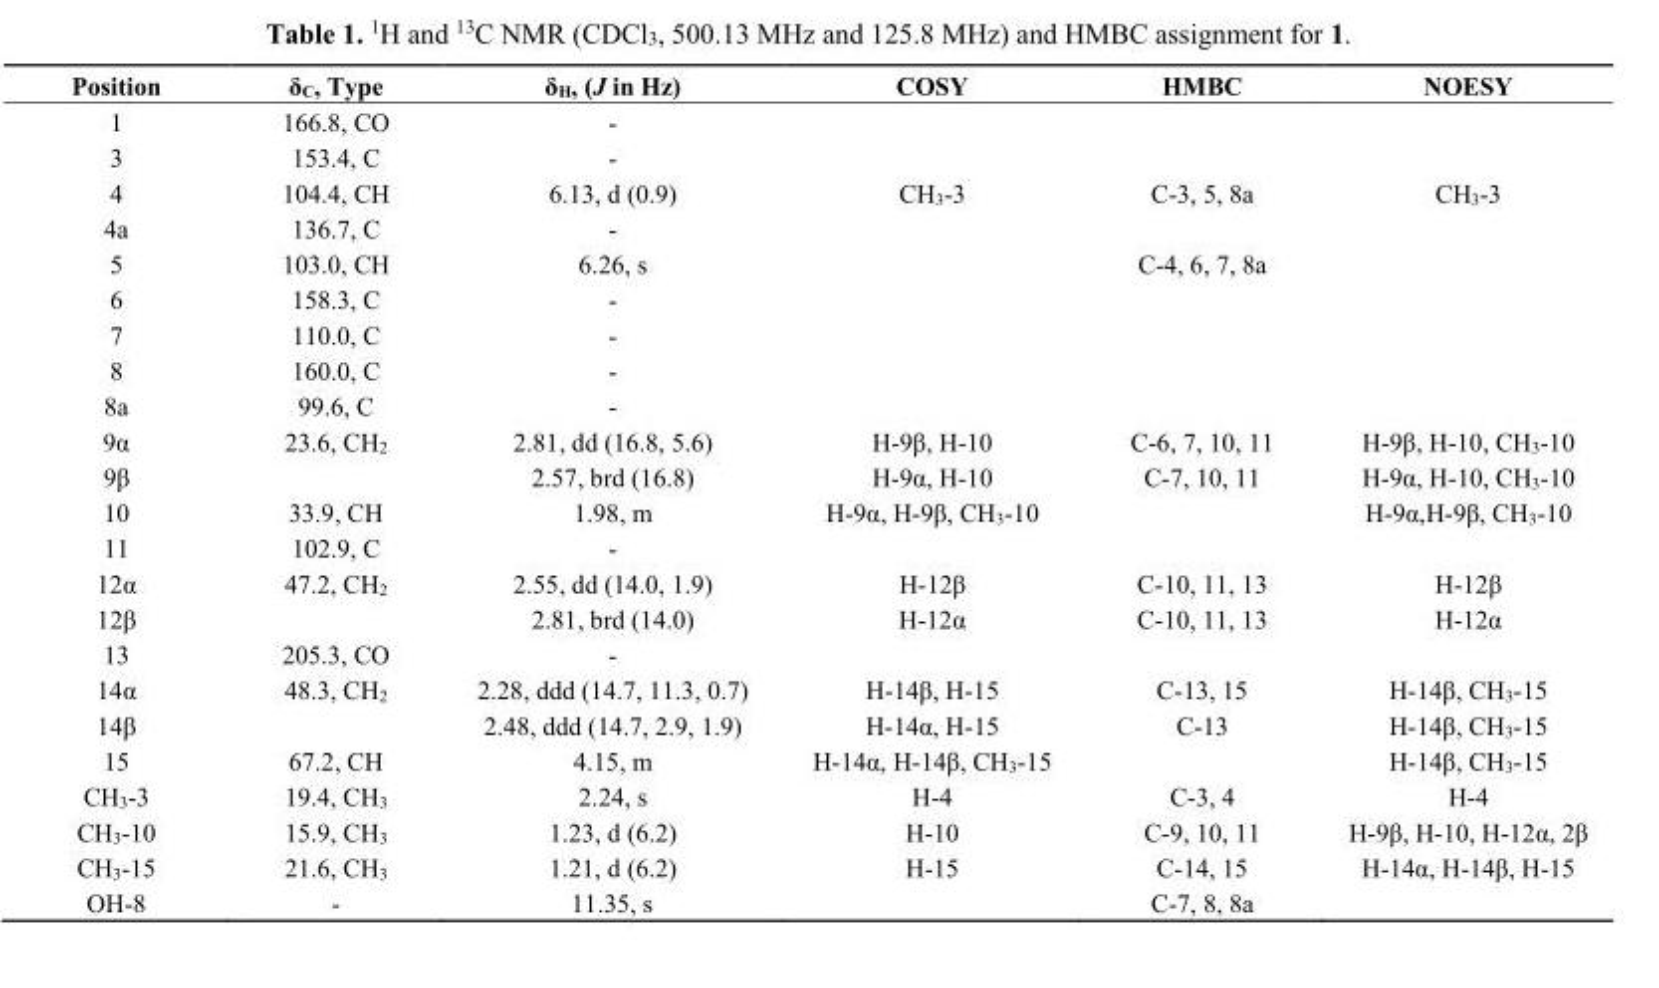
<table><thead><tr><td>Position</td><td>δ<sub>C</sub>, Type</td><td>δ<sub>H</sub>, (J in Hz)</td><td>COSY</td><td>HMBC</td><td>NOESY</td></tr></thead><tbody><tr><td>1</td><td>166.8, CO</td><td>-</td><td></td><td></td><td></td></tr><tr><td>3</td><td>153.4, C</td><td>-</td><td></td><td></td><td></td></tr><tr><td>4</td><td>104.4, CH</td><td>6.13, d (0.9)</td><td>CH<sub>3</sub>-3</td><td>C-3, 5, 8a</td><td>CH<sub>3</sub>-3</td></tr><tr><td>4a</td><td>136.7, C</td><td>-</td><td></td><td></td><td></td></tr><tr><td>5</td><td>103.0, CH</td><td>6.26, s</td><td></td><td>C-4, 6, 7, 8a</td><td></td></tr><tr><td>6</td><td>158.3, C</td><td>-</td><td></td><td></td><td></td></tr><tr><td>7</td><td>110.0, C</td><td>-</td><td></td><td></td><td></td></tr><tr><td>8</td><td>160.0, C</td><td>-</td><td></td><td></td><td></td></tr><tr><td>8a</td><td>99.6, C</td><td>-</td><td></td><td></td><td></td></tr><tr><td>9α</td><td>23.6, CH<sub>2</sub></td><td>2.81, dd (16.8, 5.6)</td><td>H-9β, H-10</td><td>C-6, 7, 10, 11</td><td>H-9β, H-10, CH<sub>3</sub>-10</td></tr><tr><td>9β</td><td></td><td>2.57, brd (16.8)</td><td>H-9α, H-10</td><td>C-7, 10, 11</td><td>H-9α, H-10, CH<sub>3</sub>-10</td></tr><tr><td>10</td><td>33.9, CH</td><td>1.98, m</td><td>H-9α, H-9β, CH<sub>3</sub>-10</td><td></td><td>H-9α,H-9β, CH<sub>3</sub>-10</td></tr><tr><td>11</td><td>102.9, C</td><td>-</td><td></td><td></td><td></td></tr><tr><td>12α</td><td>47.2, CH<sub>2</sub></td><td>2.55, dd (14.0, 1.9)</td><td>H-12β</td><td>C-10, 11, 13</td><td>H-12β</td></tr><tr><td>12β</td><td></td><td>2.81, brd (14.0)</td><td>H-12α</td><td>C-10, 11, 13</td><td>H-12α</td></tr><tr><td>13</td><td>205.3, CO</td><td>-</td><td></td><td></td><td></td></tr><tr><td>14α</td><td>48.3, CH<sub>2</sub></td><td>2.28, ddd (14.7, 11.3, 0.7)</td><td>H-14β, H-15</td><td>C-13, 15</td><td>H-14β, CH<sub>3</sub>-15</td></tr><tr><td>14β</td><td></td><td>2.48, ddd (14.7, 2.9, 1.9)</td><td>H-14α, H-15</td><td>C-13</td><td>H-14β, CH<sub>3</sub>-15</td></tr><tr><td>15</td><td>67.2, CH</td><td>4.15, m</td><td>H-14α, H-14β, CH<sub>3</sub>-15</td><td></td><td>H-14β, CH<sub>3</sub>-15</td></tr><tr><td>CH<sub>3</sub>-3</td><td>19.4, CH<sub>3</sub></td><td>2.24, s</td><td>H-4</td><td>C-3, 4</td><td>H-4</td></tr><tr><td>CH<sub>3</sub>-10</td><td>15.9, CH<sub>3</sub></td><td>1.23, d (6.2)</td><td>H-10</td><td>C-9, 10, 11</td><td>H-9β, H-10, H-12α, 2β</td></tr><tr><td>CH<sub>3</sub>-15</td><td>21.6, CH<sub>3</sub></td><td>1.21, d (6.2)</td><td>H-15</td><td>C-14, 15</td><td>H-14α, H-14β, H-15</td></tr><tr><td>OH-8</td><td>-</td><td>11.35, s</td><td></td><td>C-7, 8, 8a</td><td></td></tr></tbody></table>